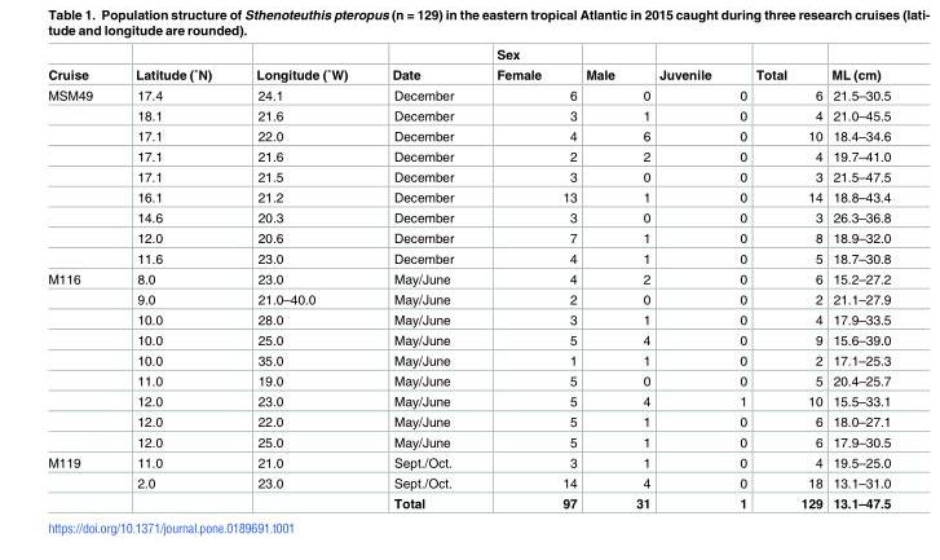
<table><thead><tr><td rowspan="2">Cruise</td><td rowspan="2">Latitude (˚N)</td><td rowspan="2">Longitude (˚W)</td><td rowspan="2">Date</td><td rowspan="2">Sex Female</td><td rowspan="2">Male</td><td rowspan="2">Juvenile</td><td rowspan="2">Total</td><td rowspan="2">ML (cm)</td></tr><tr></tr></thead><tbody><tr><td rowspan="9">MSM49</td><td>17.4</td><td>24.1</td><td>December</td><td>6</td><td>0</td><td>0</td><td>6</td><td>21.5–30.5</td></tr><tr><td>18.1</td><td>21.6</td><td>December</td><td>3</td><td>1</td><td>0</td><td>4</td><td>21.0–45.5</td></tr><tr><td>17.1</td><td>22.0</td><td>December</td><td>4</td><td>6</td><td>0</td><td>10</td><td>18.4–34.6</td></tr><tr><td>17.1</td><td>21.6</td><td>December</td><td>2</td><td>2</td><td>0</td><td>4</td><td>19.7–41.0</td></tr><tr><td>17.1</td><td>21.5</td><td>December</td><td>3</td><td>0</td><td>0</td><td>3</td><td>21.5–47.5</td></tr><tr><td>16.1</td><td>21.2</td><td>December</td><td>13</td><td>1</td><td>0</td><td>14</td><td>18.8–43.4</td></tr><tr><td>14.6</td><td>20.3</td><td>December</td><td>3</td><td>0</td><td>0</td><td>3</td><td>26.3–36.8</td></tr><tr><td>12.0</td><td>20.6</td><td>December</td><td>7</td><td>1</td><td>0</td><td>8</td><td>18.9–32.0</td></tr><tr><td>11.6</td><td>23.0</td><td>December</td><td>4</td><td>1</td><td>0</td><td>5</td><td>18.7–30.8</td></tr><tr><td rowspan="9">M116</td><td>8.0</td><td>23.0</td><td>May/June</td><td>4</td><td>2</td><td>0</td><td>6</td><td>15.2–27.2</td></tr><tr><td>9.0</td><td>21.0–40.0</td><td>May/June</td><td>2</td><td>0</td><td>0</td><td>2</td><td>21.1–27.9</td></tr><tr><td>10.0</td><td>28.0</td><td>May/June</td><td>3</td><td>1</td><td>0</td><td>4</td><td>17.9–33.5</td></tr><tr><td>10.0</td><td>25.0</td><td>May/June</td><td>5</td><td>4</td><td>0</td><td>9</td><td>15.6–39.0</td></tr><tr><td>10.0</td><td>35.0</td><td>May/June</td><td>1</td><td>1</td><td>0</td><td>2</td><td>17.1–25.3</td></tr><tr><td>11.0</td><td>19.0</td><td>May/June</td><td>5</td><td>0</td><td>0</td><td>5</td><td>20.4–25.7</td></tr><tr><td>12.0</td><td>23.0</td><td>May/June</td><td>5</td><td>4</td><td>1</td><td>10</td><td>15.5–33.1</td></tr><tr><td>12.0</td><td>22.0</td><td>May/June</td><td>5</td><td>1</td><td>0</td><td>6</td><td>18.0–27.1</td></tr><tr><td>12.0</td><td>25.0</td><td>May/June</td><td>5</td><td>1</td><td>0</td><td>6</td><td>17.9–30.5</td></tr><tr><td rowspan="3">M119</td><td>11.0</td><td>21.0</td><td>Sept./Oct.</td><td>3</td><td>1</td><td>0</td><td>4</td><td>19.5–25.0</td></tr><tr><td>2.0</td><td>23.0</td><td>Sept./Oct.</td><td>14</td><td>4</td><td>0</td><td>18</td><td>13.1–31.0</td></tr><tr><td></td><td></td><td>Total</td><td>97</td><td>31</td><td>1</td><td>129</td><td>13.1–47.5</td></tr></tbody></table>